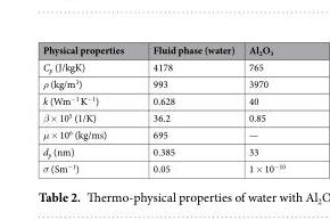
<table><thead><tr><td>Physical properties</td><td>Fluid phase (water)</td><td>Al<sub>2</sub>O<sub>3</sub></td></tr></thead><tbody><tr><td>C<sub>p</sub> (J/kgK)</td><td>4178</td><td>765</td></tr><tr><td>ρ (kg/m<sup>3</sup>)</td><td>993</td><td>3970</td></tr><tr><td>k (Wm<sup>−1</sup> K<sup>−1</sup>)</td><td>0.628</td><td>40</td></tr><tr><td>β × 10<sup>5</sup> (1/K)</td><td>36.2</td><td>0.85</td></tr><tr><td>μ × 10<sup>6</sup> (kg/ms)</td><td>695</td><td>—</td></tr><tr><td>d<sub>p</sub> (nm)</td><td>0.385</td><td>33</td></tr><tr><td>σ (Sm<sup>−1</sup>)</td><td>0.05</td><td>1 × 10<sup>−10</sup></td></tr></tbody></table>